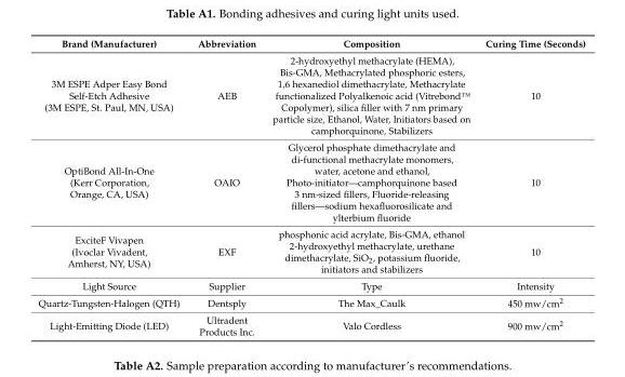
<table><thead><tr><td>Brand (Manufacturer)</td><td>Abbreviation</td><td>Composition</td><td>Curing Time (Seconds)</td></tr></thead><tbody><tr><td>3M ESPE Adper Easy Bond Self-Etch Adhesive (3M ESPE, St. Paul, MN, USA)</td><td>AEB</td><td>2-hydroxyethyl methacrylate (HEMA), Bis-GMA, Methacrylated phosphoric esters, 1,6 hexanediol dimethacrylate, Methacrylate functionalized Polyalkenoic acid (Vitrebond™ Copolymer), silica filler with 7 nm primary particle size, Ethanol, Water, Initiators based on camphorquinone, Stabilizers</td><td>10</td></tr><tr><td>OptiBond All-In-One (Kerr Corporation, Orange, CA, USA)</td><td>OAIO</td><td>Glycerol phosphate dimethacrylate and di-functional methacrylate monomers, water, acetone and ethanol, Photo-initiator—camphorquinone based 3 nm-sized fillers, Fluoride-releasing fillers—sodium hexafluorosilicate and ylterbium fluoride</td><td>10</td></tr><tr><td>ExciteF Vivapen (Ivoclar Vivadent, Amherst, NY, USA)</td><td>EXF</td><td>phosphonic acid acrylate, Bis-GMA, ethanol 2-hydroxyethyl methacrylate, urethane dimethacrylate, SiO<sup>2</sup>, potassium fluoride, initiators and stabilizers</td><td>10</td></tr><tr><td>Light Source</td><td>Supplier</td><td>Type</td><td>Intensity</td></tr><tr><td>Quartz-Tungsten-Halogen (QTH)</td><td>Dentsply</td><td>The Max_Caulk</td><td>450 mw/cm<sup>2</sup></td></tr><tr><td>Light-Emitting Diode (LED)</td><td>Ultradent Products Inc.</td><td>Valo Cordless</td><td>900 mw/cm<sup>2</sup></td></tr></tbody></table>